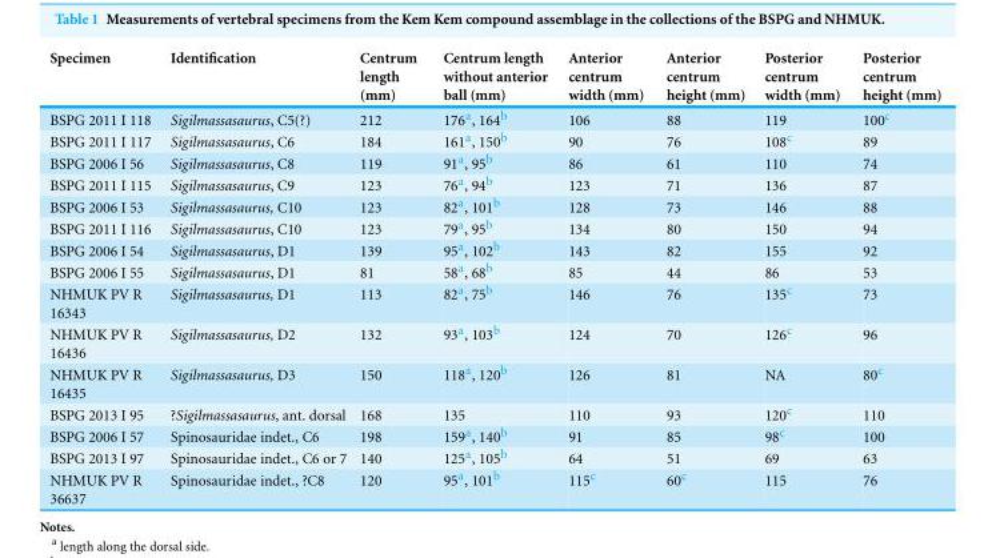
<table><thead><tr><td>Specimen</td><td>Identification</td><td>Centrum length (mm)</td><td>Centrum length without anterior ball (mm)</td><td>Anterior centrum width (mm)</td><td>Anterior centrum height (mm)</td><td>Posterior centrum width (mm)</td><td>Posterior centrum height (mm)</td></tr></thead><tbody><tr><td>BSPG 2011 I 118</td><td>Sigilmassasaurus, C5(?)</td><td>212</td><td>176<sup>a</sup>, 164<sup>b</sup></td><td>106</td><td>88</td><td>119</td><td>100<sup>c</sup></td></tr><tr><td>BSPG 2011 I 117</td><td>Sigilmassasaurus, C6</td><td>184</td><td>161<sup>a</sup>, 150<sup>b</sup></td><td>90</td><td>76</td><td>108<sup>c</sup></td><td>89</td></tr><tr><td>BSPG 2006 I 56</td><td>Sigilmassasaurus, C8</td><td>119</td><td>91<sup>a</sup>, 95<sup>b</sup></td><td>86</td><td>61</td><td>110</td><td>74</td></tr><tr><td>BSPG 2011 I 115</td><td>Sigilmassasaurus, C9</td><td>123</td><td>76<sup>a</sup>, 94<sup>b</sup></td><td>123</td><td>71</td><td>136</td><td>87</td></tr><tr><td>BSPG 2006 I 53</td><td>Sigilmassasaurus, C10</td><td>123</td><td>82<sup>a</sup>, 101<sup>b</sup></td><td>128</td><td>73</td><td>146</td><td>88</td></tr><tr><td>BSPG 2011 I 116</td><td>Sigilmassasaurus, C10</td><td>123</td><td>79<sup>a</sup>, 95<sup>b</sup></td><td>134</td><td>80</td><td>150</td><td>94</td></tr><tr><td>BSPG 2006 I 54</td><td>Sigilmassasaurus, D1</td><td>139</td><td>95<sup>a</sup>, 102<sup>b</sup></td><td>143</td><td>82</td><td>155</td><td>92</td></tr><tr><td>BSPG 2006 I 55</td><td>Sigilmassasaurus, D1</td><td>81</td><td>58<sup>a</sup>, 68<sup>b</sup></td><td>85</td><td>44</td><td>86</td><td>53</td></tr><tr><td>NHMUK PV R 16343</td><td>Sigilmassasaurus, D1</td><td>113</td><td>82<sup>a</sup>, 75<sup>b</sup></td><td>146</td><td>76</td><td>135<sup>c</sup></td><td>73</td></tr><tr><td>NHMUK PV R 16436</td><td>Sigilmassasaurus, D2</td><td>132</td><td>93<sup>a</sup>, 103<sup>b</sup></td><td>124</td><td>70</td><td>126<sup>c</sup></td><td>96</td></tr><tr><td>NHMUK PV R 16435</td><td>Sigilmassasaurus, D3</td><td>150</td><td>118<sup>a</sup>, 120<sup>b</sup></td><td>126</td><td>81</td><td>NA</td><td>80<sup>c</sup></td></tr><tr><td>BSPG 2013 I 95</td><td>?Sigilmassasaurus, ant. dorsal</td><td>168</td><td>135</td><td>110</td><td>93</td><td>120<sup>c</sup></td><td>110</td></tr><tr><td>BSPG 2006 I 57</td><td>Spinosauridae indet., C6</td><td>198</td><td>159<sup>a</sup>, 140<sup>b</sup></td><td>91</td><td>85</td><td>98<sup>c</sup></td><td>100</td></tr><tr><td>BSPG 2013 I 97</td><td>Spinosauridae indet., C6 or 7</td><td>140</td><td>125<sup>a</sup>, 105<sup>b</sup></td><td>64</td><td>51</td><td>69</td><td>63</td></tr><tr><td>NHMUK PV R 36637</td><td>Spinosauridae indet., ?C8</td><td>120</td><td>95<sup>a</sup>, 101<sup>b</sup></td><td>115<sup>c</sup></td><td>60<sup>c</sup></td><td>115</td><td>76</td></tr></tbody></table>